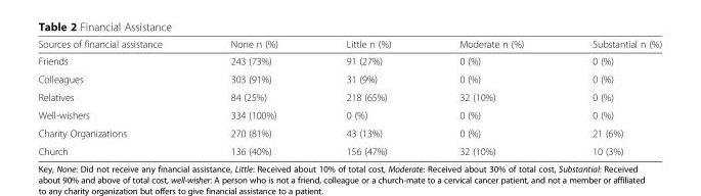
<table><thead><tr><td>Sources of financial assistance</td><td>None n (%)</td><td>Little n (%)</td><td>Moderate n (%)</td><td>Substantial n (%)</td></tr></thead><tbody><tr><td>Friends</td><td>243 (73%)</td><td>91 (27%)</td><td>0 (%)</td><td>0 (%)</td></tr><tr><td>Colleagues</td><td>303 (91%)</td><td>31 (9%)</td><td>0 (%)</td><td>0 (%)</td></tr><tr><td>Relatives</td><td>84 (25%)</td><td>218 (65%)</td><td>32 (10%)</td><td>0 (%)</td></tr><tr><td>Well-wishers</td><td>334 (100%)</td><td>0 (%)</td><td>0 (%)</td><td>0 (%)</td></tr><tr><td>Charity Organizations</td><td>270 (81%)</td><td>43 (13%)</td><td>0 (%)</td><td>21 (6%)</td></tr><tr><td>Church</td><td>136 (40%)</td><td>156 (47%)</td><td>32 (10%)</td><td>10 (3%)</td></tr></tbody></table>